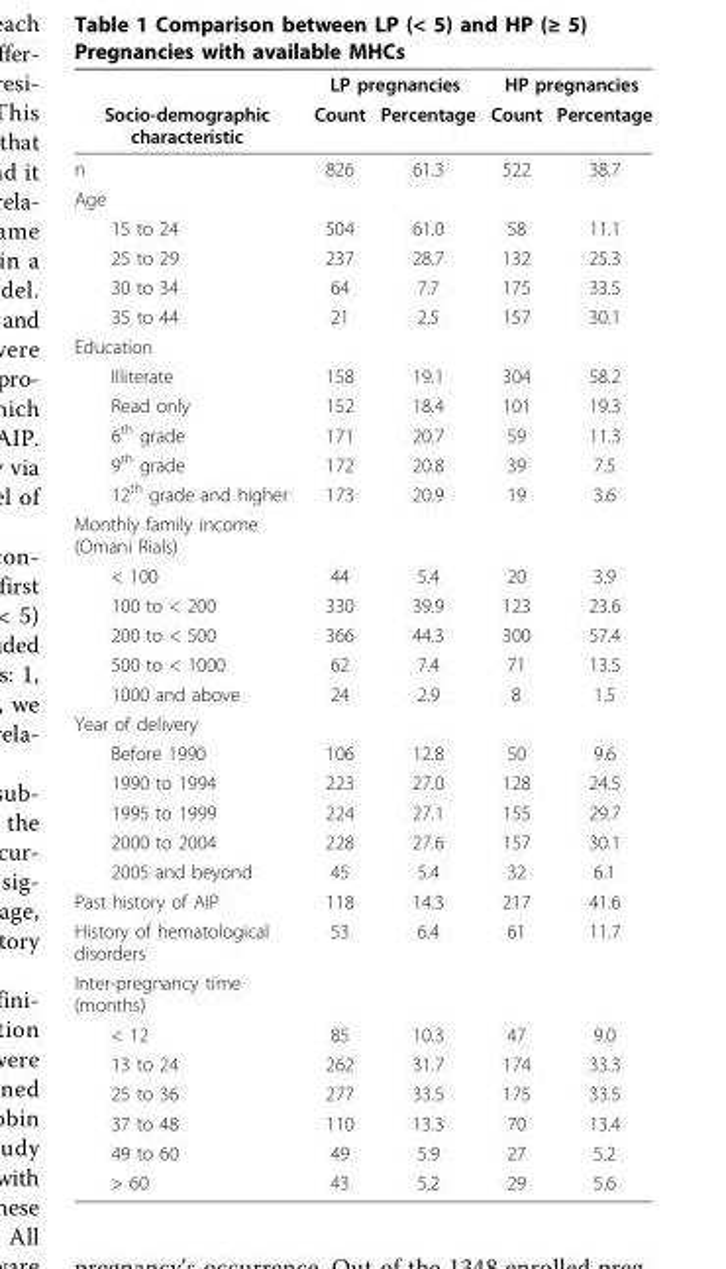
<table><thead><tr><td rowspan="2">Socio-demographic characteristic</td><td colspan="2">LP pregnancies</td><td colspan="2">HP pregnancies</td></tr><tr><td>Count</td><td>Percentage</td><td>Count</td><td>Percentage</td></tr></thead><tbody><tr><td>n</td><td>826</td><td>61.3</td><td>522</td><td>38.7</td></tr><tr><td colspan="5">Age</td></tr><tr><td>15 to 24</td><td>504</td><td>61.0</td><td>58</td><td>11.1</td></tr><tr><td>25 to 29</td><td>237</td><td>28.7</td><td>132</td><td>25.3</td></tr><tr><td>30 to 34</td><td>64</td><td>7.7</td><td>175</td><td>33.5</td></tr><tr><td>35 to 44</td><td>21</td><td>2.5</td><td>157</td><td>30.1</td></tr><tr><td colspan="5">Education</td></tr><tr><td>Illiterate</td><td>158</td><td>19.1</td><td>304</td><td>58.2</td></tr><tr><td>Read only</td><td>152</td><td>18.4</td><td>101</td><td>19.3</td></tr><tr><td>6<sup>th</sup> grade</td><td>171</td><td>20.7</td><td>59</td><td>11.3</td></tr><tr><td>9<sup>th</sup> grade</td><td>172</td><td>20.8</td><td>39</td><td>7.5</td></tr><tr><td>12<sup>th</sup> grade and higher</td><td>173</td><td>20.9</td><td>19</td><td>3.6</td></tr><tr><td colspan="5">Monthly family income (Omani Rials)</td></tr><tr><td>&lt; 100</td><td>44</td><td>5.4</td><td>20</td><td>3.9</td></tr><tr><td>100 to &lt; 200</td><td>330</td><td>39.9</td><td>123</td><td>23.6</td></tr><tr><td>200 to &lt; 500</td><td>366</td><td>44.3</td><td>300</td><td>57.4</td></tr><tr><td>500 to &lt; 1000</td><td>62</td><td>7.4</td><td>71</td><td>13.5</td></tr><tr><td>1000 and above</td><td>24</td><td>2.9</td><td>8</td><td>1.5</td></tr><tr><td colspan="5">Year of delivery</td></tr><tr><td>Before 1990</td><td>106</td><td>12.8</td><td>50</td><td>9.6</td></tr><tr><td>1990 to 1994</td><td>223</td><td>27.0</td><td>128</td><td>24.5</td></tr><tr><td>1995 to 1999</td><td>224</td><td>27.1</td><td>155</td><td>29.7</td></tr><tr><td>2000 to 2004</td><td>228</td><td>27.6</td><td>157</td><td>30.1</td></tr><tr><td>2005 and beyond</td><td>45</td><td>5.4</td><td>32</td><td>6.1</td></tr><tr><td>Past history of AIP</td><td>118</td><td>14.3</td><td>217</td><td>41.6</td></tr><tr><td>History of hematological disorders</td><td>53</td><td>6.4</td><td>61</td><td>11.7</td></tr><tr><td colspan="5">Inter-pregnancy time (months)</td></tr><tr><td>&lt; 12</td><td>85</td><td>10.3</td><td>47</td><td>9.0</td></tr><tr><td>13 to 24</td><td>262</td><td>31.7</td><td>174</td><td>33.3</td></tr><tr><td>25 to 36</td><td>277</td><td>33.5</td><td>175</td><td>33.5</td></tr><tr><td>37 to 48</td><td>110</td><td>13.3</td><td>70</td><td>13.4</td></tr><tr><td>49 to 60</td><td>49</td><td>5.9</td><td>27</td><td>5.2</td></tr><tr><td>&gt; 60</td><td>43</td><td>5.2</td><td>29</td><td>5.6</td></tr></tbody></table>